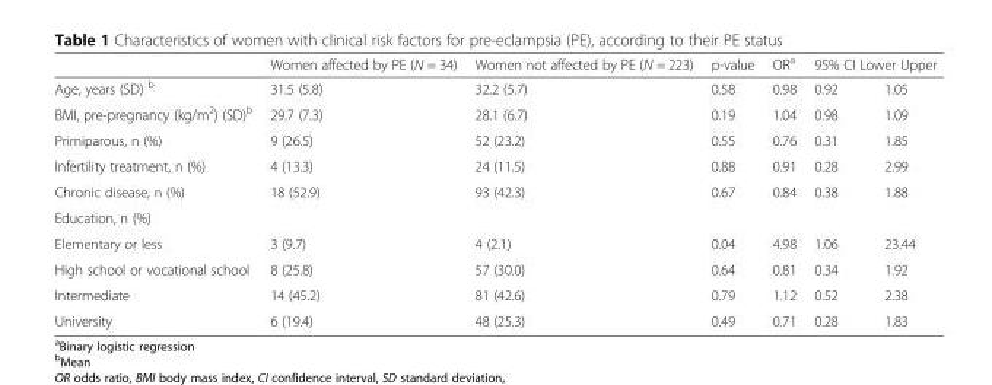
<table><thead><tr><td rowspan="2">Age, years (SD) <sup>b</sup></td><td rowspan="2">Women affected by PE (N = 34) 31.5 (5.8)</td><td rowspan="2">Women not affected by PE (N = 223) 32.2 (5.7)</td><td rowspan="2">p-value 0.58</td><td rowspan="2">OR<sup>a</sup> 0.98</td><td colspan="2">95% CI Lower Upper</td></tr><tr><td>0.92</td><td>1.05</td></tr></thead><tbody><tr><td>BMI, pre-pregnancy (kg/m<sup>2</sup>) (SD)<sup>b</sup></td><td>29.7 (7.3)</td><td>28.1 (6.7)</td><td>0.19</td><td>1.04</td><td>0.98</td><td>1.09</td></tr><tr><td>Primiparous, n (%)</td><td>9 (26.5)</td><td>52 (23.2)</td><td>0.55</td><td>0.76</td><td>0.31</td><td>1.85</td></tr><tr><td>Infertility treatment, n (%)</td><td>4 (13.3)</td><td>24 (11.5)</td><td>0.88</td><td>0.91</td><td>0.28</td><td>2.99</td></tr><tr><td>Chronic disease, n (%)</td><td>18 (52.9)</td><td>93 (42.3)</td><td>0.67</td><td>0.84</td><td>0.38</td><td>1.88</td></tr><tr><td colspan="7">Education, n (%)</td></tr><tr><td>Elementary or less</td><td>3 (9.7)</td><td>4 (2.1)</td><td>0.04</td><td>4.98</td><td>1.06</td><td>23.44</td></tr><tr><td>High school or vocational school</td><td>8 (25.8)</td><td>57 (30.0)</td><td>0.64</td><td>0.81</td><td>0.34</td><td>1.92</td></tr><tr><td>Intermediate</td><td>14 (45.2)</td><td>81 (42.6)</td><td>0.79</td><td>1.12</td><td>0.52</td><td>2.38</td></tr><tr><td>University</td><td>6 (19.4)</td><td>48 (25.3)</td><td>0.49</td><td>0.71</td><td>0.28</td><td>1.83</td></tr></tbody></table>